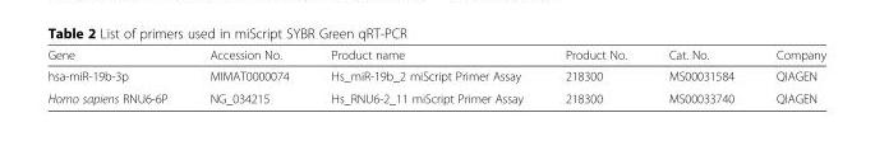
<table><thead><tr><td>Gene</td><td>Accession No.</td><td>Product name</td><td>Product No.</td><td>Cat. No.</td><td>Company</td></tr></thead><tbody><tr><td>hsa-miR-19b-3p</td><td>MIMAT0000074</td><td>Hs_miR-19b_2 miScript Primer Assay</td><td>218300</td><td>MS00031584</td><td>QIAGEN</td></tr><tr><td>Homo sapiens RNU6-6P</td><td>NG_034215</td><td>Hs_RNU6-2_11 miScript Primer Assay</td><td>218300</td><td>MS00033740</td><td>QIAGEN</td></tr></tbody></table>